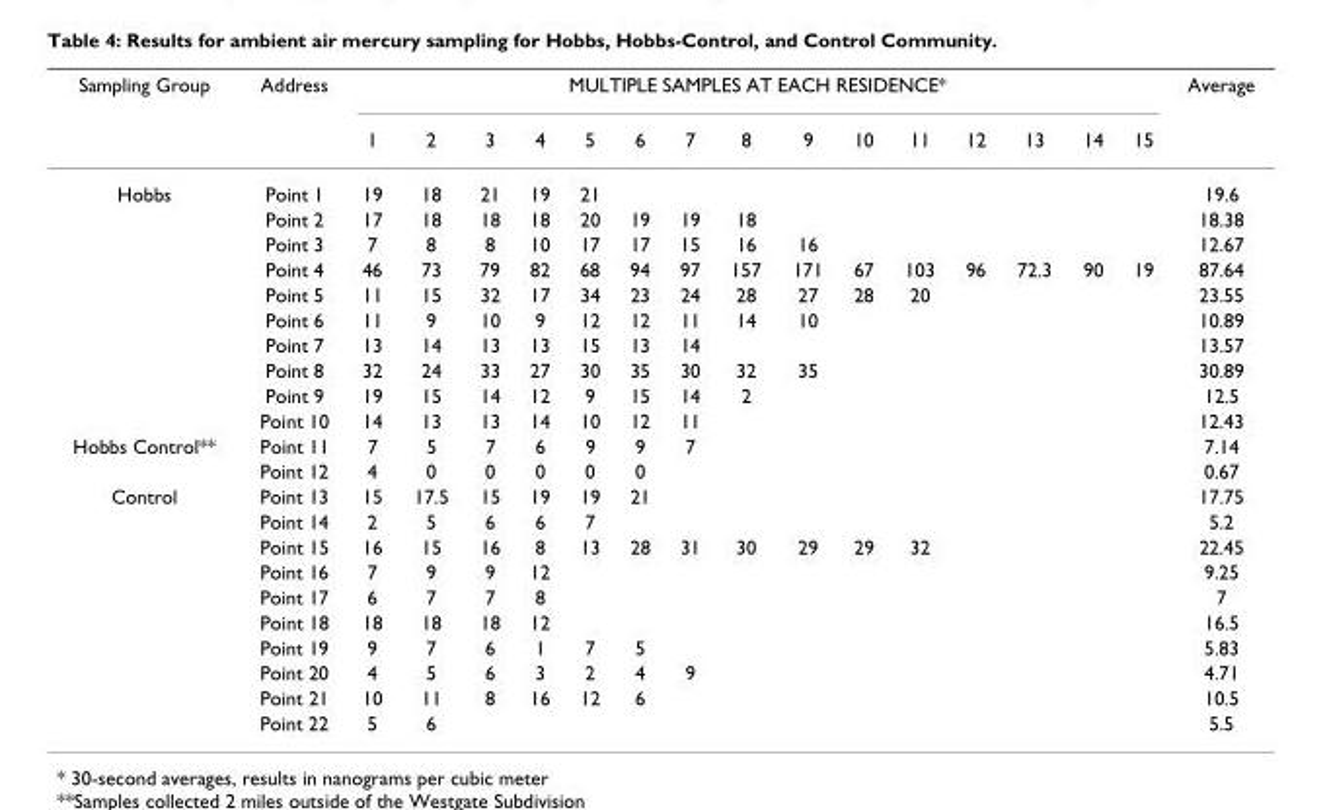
<table><thead><tr><td rowspan="2">Sampling Group</td><td rowspan="2">Address</td><td colspan="15">MULTIPLE SAMPLES AT EACH RESIDENCE*</td><td rowspan="2">Average</td></tr><tr><td>1</td><td>2</td><td>3</td><td>4</td><td>5</td><td>6</td><td>7</td><td>8</td><td>9</td><td>10</td><td>11</td><td>12</td><td>13</td><td>14</td><td>15</td></tr></thead><tbody><tr><td rowspan="10">Hobbs</td><td>Point 1</td><td>19</td><td>18</td><td>21</td><td>19</td><td>21</td><td></td><td></td><td></td><td></td><td></td><td></td><td></td><td></td><td></td><td></td><td>19.6</td></tr><tr><td>Point 2</td><td>17</td><td>18</td><td>18</td><td>18</td><td>20</td><td>19</td><td>19</td><td>18</td><td></td><td></td><td></td><td></td><td></td><td></td><td></td><td>18.38</td></tr><tr><td>Point 3</td><td>7</td><td>8</td><td>8</td><td>10</td><td>17</td><td>17</td><td>15</td><td>16</td><td>16</td><td></td><td></td><td></td><td></td><td></td><td></td><td>12.67</td></tr><tr><td>Point 4</td><td>46</td><td>73</td><td>79</td><td>82</td><td>68</td><td>94</td><td>97</td><td>157</td><td>171</td><td>67</td><td>103</td><td>96</td><td>72.3</td><td>90</td><td>19</td><td>87.64</td></tr><tr><td>Point 5</td><td>11</td><td>15</td><td>32</td><td>17</td><td>34</td><td>23</td><td>24</td><td>28</td><td>27</td><td>28</td><td>20</td><td></td><td></td><td></td><td></td><td>23.55</td></tr><tr><td>Point 6</td><td>11</td><td>9</td><td>10</td><td>9</td><td>12</td><td>12</td><td>11</td><td>14</td><td>10</td><td></td><td></td><td></td><td></td><td></td><td></td><td>10.89</td></tr><tr><td>Point 7</td><td>13</td><td>14</td><td>13</td><td>13</td><td>15</td><td>13</td><td>14</td><td></td><td></td><td></td><td></td><td></td><td></td><td></td><td></td><td>13.57</td></tr><tr><td>Point 8</td><td>32</td><td>24</td><td>33</td><td>27</td><td>30</td><td>35</td><td>30</td><td>32</td><td>35</td><td></td><td></td><td></td><td></td><td></td><td></td><td>30.89</td></tr><tr><td>Point 9</td><td>19</td><td>15</td><td>14</td><td>12</td><td>9</td><td>15</td><td>14</td><td>2</td><td></td><td></td><td></td><td></td><td></td><td></td><td></td><td>12.5</td></tr><tr><td>Point 10</td><td>14</td><td>13</td><td>13</td><td>14</td><td>10</td><td>12</td><td>11</td><td></td><td></td><td></td><td></td><td></td><td></td><td></td><td></td><td>12.43</td></tr><tr><td rowspan="2">Hobbs Control**</td><td>Point 11</td><td>7</td><td>5</td><td>7</td><td>6</td><td>9</td><td>9</td><td>7</td><td></td><td></td><td></td><td></td><td></td><td></td><td></td><td></td><td>7.14</td></tr><tr><td>Point 12</td><td>4</td><td>0</td><td>0</td><td>0</td><td>0</td><td>0</td><td></td><td></td><td></td><td></td><td></td><td></td><td></td><td></td><td></td><td>0.67</td></tr><tr><td rowspan="10">Control</td><td>Point 13</td><td>15</td><td>17.5</td><td>15</td><td>19</td><td>19</td><td>21</td><td></td><td></td><td></td><td></td><td></td><td></td><td></td><td></td><td></td><td>17.75</td></tr><tr><td>Point 14</td><td>2</td><td>5</td><td>6</td><td>6</td><td>7</td><td></td><td></td><td></td><td></td><td></td><td></td><td></td><td></td><td></td><td></td><td>5.2</td></tr><tr><td>Point 15</td><td>16</td><td>15</td><td>16</td><td>8</td><td>13</td><td>28</td><td>31</td><td>30</td><td>29</td><td>29</td><td>32</td><td></td><td></td><td></td><td></td><td>22.45</td></tr><tr><td>Point 16</td><td>7</td><td>9</td><td>9</td><td>12</td><td></td><td></td><td></td><td></td><td></td><td></td><td></td><td></td><td></td><td></td><td></td><td>9.25</td></tr><tr><td>Point 17</td><td>6</td><td>7</td><td>7</td><td>8</td><td></td><td></td><td></td><td></td><td></td><td></td><td></td><td></td><td></td><td></td><td></td><td>7</td></tr><tr><td>Point 18</td><td>18</td><td>18</td><td>18</td><td>12</td><td></td><td></td><td></td><td></td><td></td><td></td><td></td><td></td><td></td><td></td><td></td><td>16.5</td></tr><tr><td>Point 19</td><td>9</td><td>7</td><td>6</td><td>1</td><td>7</td><td>5</td><td></td><td></td><td></td><td></td><td></td><td></td><td></td><td></td><td></td><td>5.83</td></tr><tr><td>Point 20</td><td>4</td><td>5</td><td>6</td><td>3</td><td>2</td><td>4</td><td>9</td><td></td><td></td><td></td><td></td><td></td><td></td><td></td><td></td><td>4.71</td></tr><tr><td>Point 21</td><td>10</td><td>11</td><td>8</td><td>16</td><td>12</td><td>6</td><td></td><td></td><td></td><td></td><td></td><td></td><td></td><td></td><td></td><td>10.5</td></tr><tr><td>Point 22</td><td>5</td><td>6</td><td></td><td></td><td></td><td></td><td></td><td></td><td></td><td></td><td></td><td></td><td></td><td></td><td></td><td>5.5</td></tr></tbody></table>